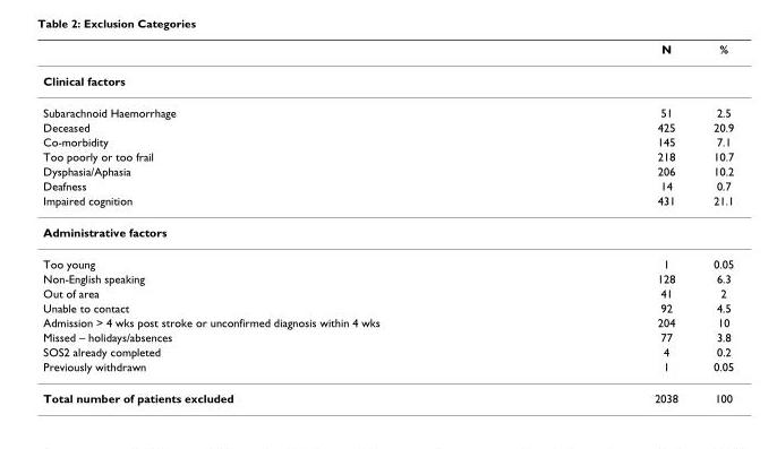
<table><thead><tr><td></td><td>N</td><td>%</td></tr></thead><tbody><tr><td colspan="3">Clinical factors</td></tr><tr><td>Subarachnoid Haemorrhage</td><td>51</td><td>2.5</td></tr><tr><td>Deceased</td><td>425</td><td>20.9</td></tr><tr><td>Co-morbidity</td><td>145</td><td>7.1</td></tr><tr><td>Too poorly or too frail</td><td>218</td><td>10.7</td></tr><tr><td>Dysphasia/Aphasia</td><td>206</td><td>10.2</td></tr><tr><td>Deafness</td><td>14</td><td>0.7</td></tr><tr><td>Impaired cognition</td><td>431</td><td>21.1</td></tr><tr><td colspan="3">Administrative factors</td></tr><tr><td>Too young</td><td>1</td><td>0.05</td></tr><tr><td>Non-English speaking</td><td>128</td><td>6.3</td></tr><tr><td>Out of area</td><td>41</td><td>2</td></tr><tr><td>Unable to contact</td><td>92</td><td>4.5</td></tr><tr><td>Admission &gt; 4 wks post stroke or unconfirmed diagnosis within 4 wks</td><td>204</td><td>10</td></tr><tr><td>Missed – holidays/absences</td><td>77</td><td>3.8</td></tr><tr><td>SOS2 already completed</td><td>4</td><td>0.2</td></tr><tr><td>Previously withdrawn</td><td>1</td><td>0.05</td></tr><tr><td>Total number of patients excluded</td><td>2038</td><td>100</td></tr></tbody></table>